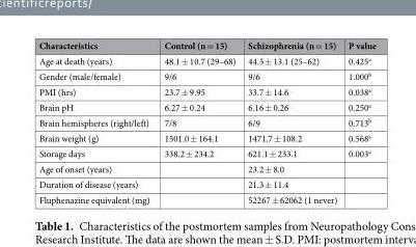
<table><thead><tr><td>Characteristics</td><td>Control (n = 15)</td><td>Schizophrenia (n = 15)</td><td>P value</td></tr></thead><tbody><tr><td>Age at death (years)</td><td>48.1 ± 10.7 (29–68)</td><td>44.5 ± 13.1 (25–62)</td><td>0.425<sup>a</sup></td></tr><tr><td>Gender (male/female)</td><td>9/6</td><td>9/6</td><td>1.000<sup>b</sup></td></tr><tr><td>PMI (hrs)</td><td>23.7 ± 9.95</td><td>33.7 ± 14.6</td><td>0.038<sup>a</sup></td></tr><tr><td>Brain pH</td><td>6.27 ± 0.24</td><td>6.16 ± 0.26</td><td>0.250<sup>a</sup></td></tr><tr><td>Brain hemispheres (right/left)</td><td>7/8</td><td>6/9</td><td>0.713<sup>b</sup></td></tr><tr><td>Brain weight (g)</td><td>1501.0 ± 164.1</td><td>1471.7 ± 108.2</td><td>0.568<sup>a</sup></td></tr><tr><td>Storage days</td><td>338.2 ± 234.2</td><td>621.1 ± 233.1</td><td>0.003<sup>a</sup></td></tr><tr><td>Age of onset (years)</td><td></td><td>23.2 ± 8.0</td><td></td></tr><tr><td>Duration of disease (years)</td><td></td><td>21.3 ± 11.4</td><td></td></tr><tr><td>Fluphenazine equivalent (mg)</td><td></td><td>52267 ± 62062 (1 never)</td><td></td></tr></tbody></table>